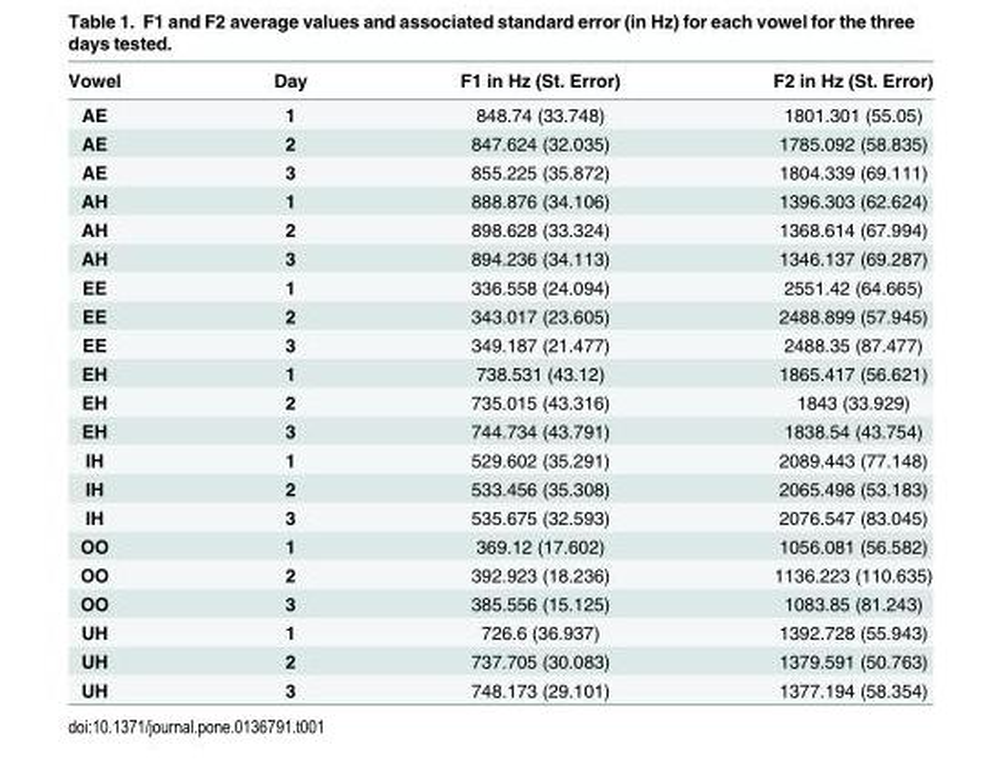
<table><thead><tr><td>Vowel</td><td>Day</td><td>F1 in Hz (St. Error)</td><td>F2 in Hz (St. Error)</td></tr></thead><tbody><tr><td>AE</td><td>1</td><td>848.74 (33.748)</td><td>1801.301 (55.05)</td></tr><tr><td>AE</td><td>2</td><td>847.624 (32.035)</td><td>1785.092 (58.835)</td></tr><tr><td>AE</td><td>3</td><td>855.225 (35.872)</td><td>1804.339 (69.111)</td></tr><tr><td>AH</td><td>1</td><td>888.876 (34.106)</td><td>1396.303 (62.624)</td></tr><tr><td>AH</td><td>2</td><td>898.628 (33.324)</td><td>1368.614 (67.994)</td></tr><tr><td>AH</td><td>3</td><td>894.236 (34.113)</td><td>1346.137 (69.287)</td></tr><tr><td>EE</td><td>1</td><td>336.558 (24.094)</td><td>2551.42 (64.665)</td></tr><tr><td>EE</td><td>2</td><td>343.017 (23.605)</td><td>2488.899 (57.945)</td></tr><tr><td>EE</td><td>3</td><td>349.187 (21.477)</td><td>2488.35 (87.477)</td></tr><tr><td>EH</td><td>1</td><td>738.531 (43.12)</td><td>1865.417 (56.621)</td></tr><tr><td>EH</td><td>2</td><td>735.015 (43.316)</td><td>1843 (33.929)</td></tr><tr><td>EH</td><td>3</td><td>744.734 (43.791)</td><td>1838.54 (43.754)</td></tr><tr><td>IH</td><td>1</td><td>529.602 (35.291)</td><td>2089.443 (77.148)</td></tr><tr><td>IH</td><td>2</td><td>533.456 (35.308)</td><td>2065.498 (53.183)</td></tr><tr><td>IH</td><td>3</td><td>535.675 (32.593)</td><td>2076.547 (83.045)</td></tr><tr><td>OO</td><td>1</td><td>369.12 (17.602)</td><td>1056.081 (56.582)</td></tr><tr><td>OO</td><td>2</td><td>392.923 (18.236)</td><td>1136.223 (110.635)</td></tr><tr><td>OO</td><td>3</td><td>385.556 (15.125)</td><td>1083.85 (81.243)</td></tr><tr><td>UH</td><td>1</td><td>726.6 (36.937)</td><td>1392.728 (55.943)</td></tr><tr><td>UH</td><td>2</td><td>737.705 (30.083)</td><td>1379.591 (50.763)</td></tr><tr><td>UH</td><td>3</td><td>748.173 (29.101)</td><td>1377.194 (58.354)</td></tr></tbody></table>